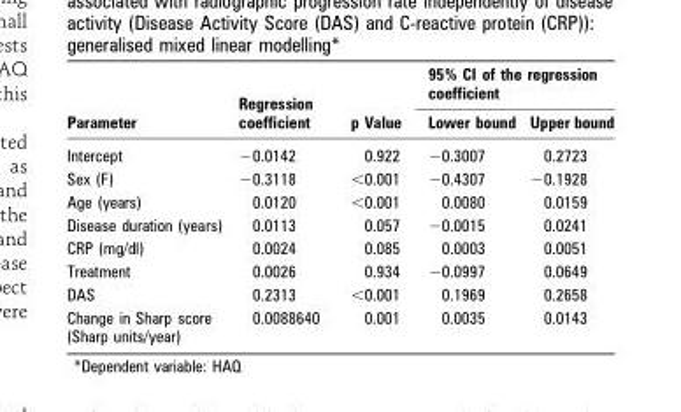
<table><thead><tr><td rowspan="2">Parameter</td><td rowspan="2">Regression coefficient</td><td rowspan="2">p Value</td><td colspan="2">95% CI of the regression coefficient</td></tr><tr><td>Lower bound</td><td>Upper bound</td></tr></thead><tbody><tr><td>Intercept</td><td>−0.0142</td><td>0.922</td><td>−0.3007</td><td>0.2723</td></tr><tr><td>Sex (F)</td><td>−0.3118</td><td>&lt;0.001</td><td>−0.4307</td><td>−0.1928</td></tr><tr><td>Age (years)</td><td>0.0120</td><td>&lt;0.001</td><td>0.0080</td><td>0.0159</td></tr><tr><td>Disease duration (years)</td><td>0.0113</td><td>0.057</td><td>−0.0015</td><td>0.0241</td></tr><tr><td>CRP (mg/dl)</td><td>0.0024</td><td>0.085</td><td>0.0003</td><td>0.0051</td></tr><tr><td>Treatment</td><td>0.0026</td><td>0.934</td><td>−0.0997</td><td>0.0649</td></tr><tr><td>DAS</td><td>0.2313</td><td>&lt;0.001</td><td>0.1969</td><td>0.2658</td></tr><tr><td>Change in Sharp score (Sharp units/year)</td><td>0.0088640</td><td>0.001</td><td>0.0035</td><td>0.0143</td></tr></tbody></table>